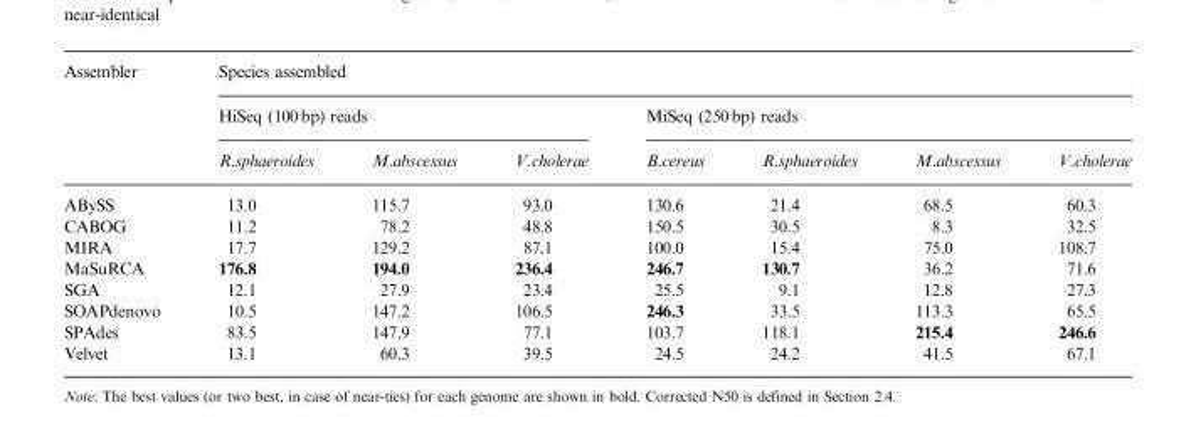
<table><thead><tr><td rowspan="3">Assembler</td><td colspan="7">Species assembled</td></tr><tr><td colspan="3">HiSeq (100 bp) reads</td><td colspan="4">MiSeq (250 bp) reads</td></tr><tr><td>R.sphaeroides</td><td>M.abscessus</td><td>V.cholerae</td><td>B.cereus</td><td>R.sphaeroides</td><td>M.abscessus</td><td>V.cholerae</td></tr></thead><tbody><tr><td>ABySS</td><td>13.0</td><td>115.7</td><td>93.0</td><td>130.6</td><td>21.4</td><td>68.5</td><td>60.3</td></tr><tr><td>CABOG</td><td>11.2</td><td>78.2</td><td>48.8</td><td>150.5</td><td>30.5</td><td>8.3</td><td>32.5</td></tr><tr><td>MIRA</td><td>17.7</td><td>129.2</td><td>87.1</td><td>100.0</td><td>15.4</td><td>75.0</td><td>108.7</td></tr><tr><td>MaSuRCA</td><td>176.8</td><td>194.0</td><td>236.4</td><td>246.7</td><td>130.7</td><td>36.2</td><td>71.6</td></tr><tr><td>SGA</td><td>12.1</td><td>27.9</td><td>23.4</td><td>25.5</td><td>9.1</td><td>12.8</td><td>27.3</td></tr><tr><td>SOAPdenovo</td><td>10.5</td><td>147.2</td><td>106.5</td><td>246.3</td><td>33.5</td><td>113.3</td><td>65.5</td></tr><tr><td>SPAdes</td><td>83.5</td><td>147.9</td><td>77.1</td><td>103.7</td><td>118.1</td><td>215.4</td><td>246.6</td></tr><tr><td>Velvet</td><td>13.1</td><td>60.3</td><td>39.5</td><td>24.5</td><td>24.2</td><td>41.5</td><td>67.1</td></tr></tbody></table>